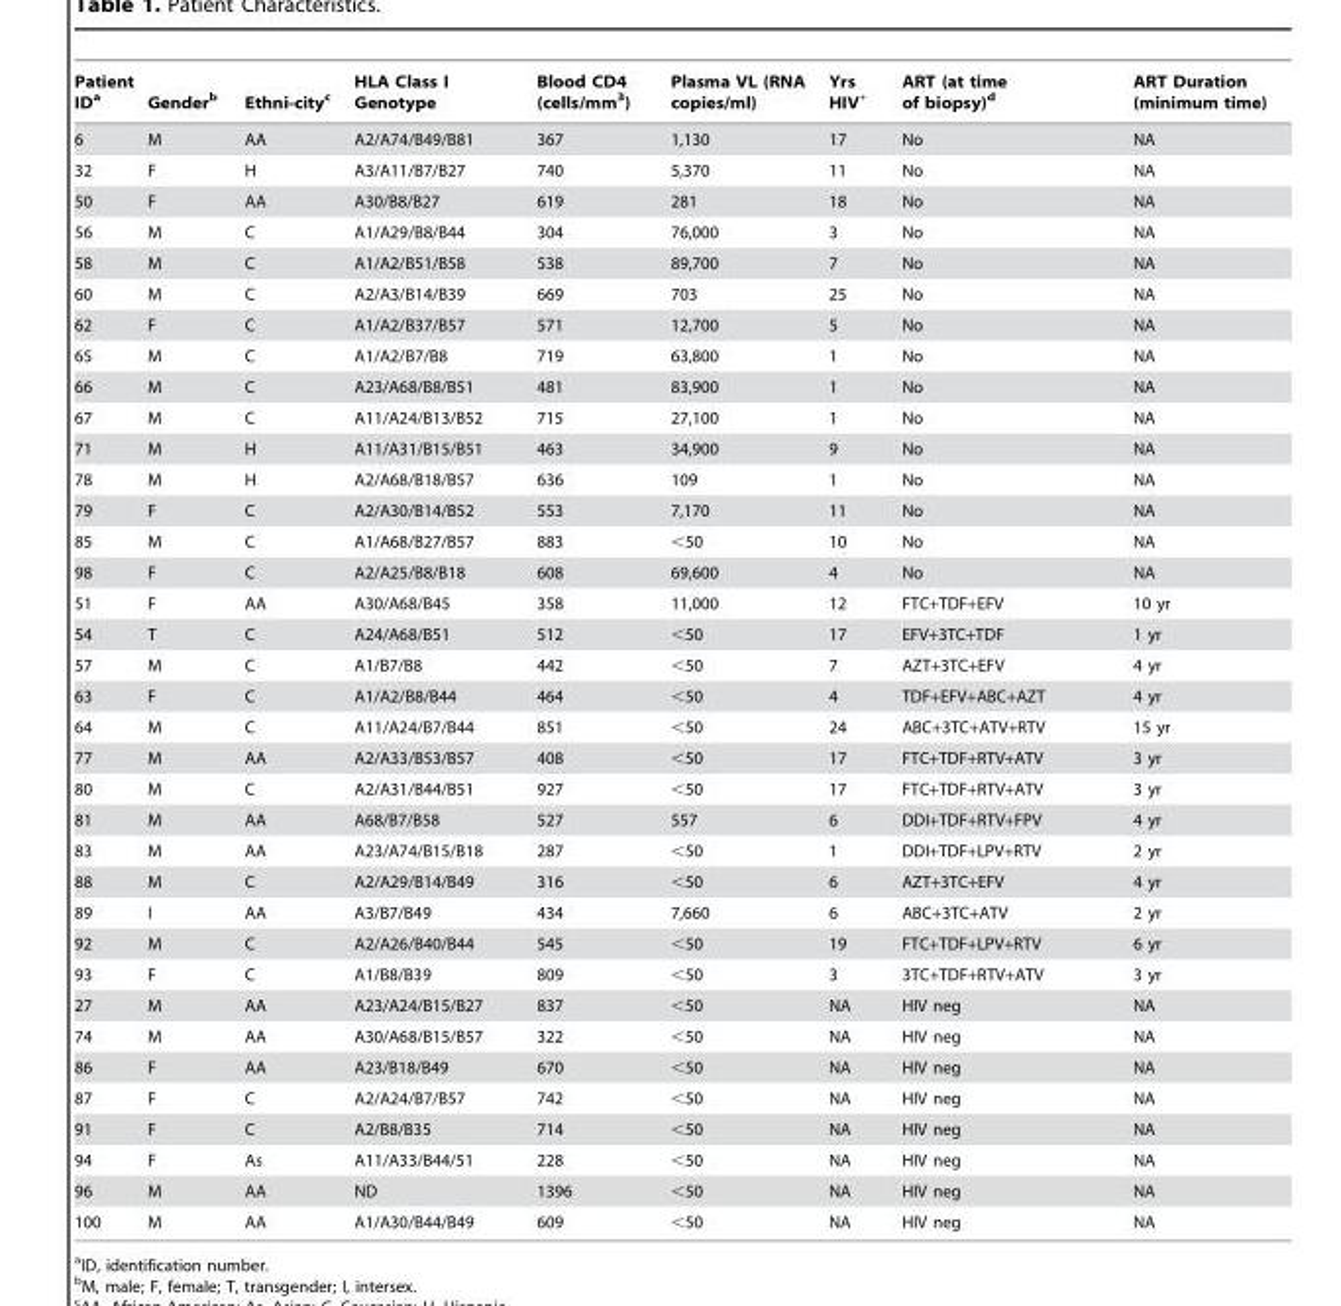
<table><thead><tr><td>Patient ID<sup>a</sup></td><td>Gender<sup>b</sup></td><td>Ethni-city<sup>c</sup></td><td>HLA Class I Genotype</td><td>Blood CD4 (cells/mm<sup>3</sup>)</td><td>Plasma VL (RNA copies/ml)</td><td>Yrs HIV<sup>+</sup></td><td>ART (at time of biopsy)<sup>d</sup></td><td>ART Duration (minimum time)</td></tr></thead><tbody><tr><td>6</td><td>M</td><td>AA</td><td>A2/A74/B49/B81</td><td>367</td><td>1,130</td><td>17</td><td>No</td><td>NA</td></tr><tr><td>32</td><td>F</td><td>H</td><td>A3/A11/B7/B27</td><td>740</td><td>5,370</td><td>11</td><td>No</td><td>NA</td></tr><tr><td>50</td><td>F</td><td>AA</td><td>A30/B8/B27</td><td>619</td><td>281</td><td>18</td><td>No</td><td>NA</td></tr><tr><td>56</td><td>M</td><td>C</td><td>A1/A29/B8/B44</td><td>304</td><td>76,000</td><td>3</td><td>No</td><td>NA</td></tr><tr><td>58</td><td>M</td><td>C</td><td>A1/A2/B51/B58</td><td>538</td><td>89,700</td><td>7</td><td>No</td><td>NA</td></tr><tr><td>60</td><td>M</td><td>C</td><td>A2/A3/B14/B39</td><td>669</td><td>703</td><td>25</td><td>No</td><td>NA</td></tr><tr><td>62</td><td>F</td><td>C</td><td>A1/A2/B37/B57</td><td>571</td><td>12,700</td><td>5</td><td>No</td><td>NA</td></tr><tr><td>65</td><td>M</td><td>C</td><td>A1/A2/B7/B8</td><td>719</td><td>63,800</td><td>1</td><td>No</td><td>NA</td></tr><tr><td>66</td><td>M</td><td>C</td><td>A23/A68/B8/B51</td><td>481</td><td>83,900</td><td>1</td><td>No</td><td>NA</td></tr><tr><td>67</td><td>M</td><td>C</td><td>A11/A24/B13/B52</td><td>715</td><td>27,100</td><td>1</td><td>No</td><td>NA</td></tr><tr><td>71</td><td>M</td><td>H</td><td>A11/A31/B15/B51</td><td>463</td><td>34,900</td><td>9</td><td>No</td><td>NA</td></tr><tr><td>78</td><td>M</td><td>H</td><td>A2/A68/B18/B57</td><td>636</td><td>109</td><td>1</td><td>No</td><td>NA</td></tr><tr><td>79</td><td>F</td><td>C</td><td>A2/A30/B14/B52</td><td>553</td><td>7,170</td><td>11</td><td>No</td><td>NA</td></tr><tr><td>85</td><td>M</td><td>C</td><td>A1/A68/B27/B57</td><td>883</td><td>&lt;50</td><td>10</td><td>No</td><td>NA</td></tr><tr><td>98</td><td>F</td><td>C</td><td>A2/A25/B8/B18</td><td>608</td><td>69,600</td><td>4</td><td>No</td><td>NA</td></tr><tr><td>51</td><td>F</td><td>AA</td><td>A30/A68/B45</td><td>358</td><td>11,000</td><td>12</td><td>FTC+TDF+EFV</td><td>10 yr</td></tr><tr><td>54</td><td>T</td><td>C</td><td>A24/A68/B51</td><td>512</td><td>&lt;50</td><td>17</td><td>EFV+3TC+TDF</td><td>1 yr</td></tr><tr><td>57</td><td>M</td><td>C</td><td>A1/B7/B8</td><td>442</td><td>&lt;50</td><td>7</td><td>AZT+3TC+EFV</td><td>4 yr</td></tr><tr><td>63</td><td>F</td><td>C</td><td>A1/A2/B8/B44</td><td>464</td><td>&lt;50</td><td>4</td><td>TDF+EFV+ABC+AZT</td><td>4 yr</td></tr><tr><td>64</td><td>M</td><td>C</td><td>A11/A24/B7/B44</td><td>851</td><td>&lt;50</td><td>24</td><td>ABC+3TC+ATV+RTV</td><td>15 yr</td></tr><tr><td>77</td><td>M</td><td>AA</td><td>A2/A33/B53/B57</td><td>408</td><td>&lt;50</td><td>17</td><td>FTC+TDF+RTV+ATV</td><td>3 yr</td></tr><tr><td>80</td><td>M</td><td>C</td><td>A2/A31/B44/B51</td><td>927</td><td>&lt;50</td><td>17</td><td>FTC+TDF+RTV+ATV</td><td>3 yr</td></tr><tr><td>81</td><td>M</td><td>AA</td><td>A68/B7/B58</td><td>527</td><td>557</td><td>6</td><td>DDI+TDF+RTV+FPV</td><td>4 yr</td></tr><tr><td>83</td><td>M</td><td>AA</td><td>A23/A74/B15/B18</td><td>287</td><td>&lt;50</td><td>1</td><td>DDI+TDF+LPV+RTV</td><td>2 yr</td></tr><tr><td>88</td><td>M</td><td>C</td><td>A2/A29/B14/B49</td><td>316</td><td>&lt;50</td><td>6</td><td>AZT+3TC+EFV</td><td>4 yr</td></tr><tr><td>89</td><td>I</td><td>AA</td><td>A3/B7/B49</td><td>434</td><td>7,660</td><td>6</td><td>ABC+3TC+ATV</td><td>2 yr</td></tr><tr><td>92</td><td>M</td><td>C</td><td>A2/A26/B40/B44</td><td>545</td><td>&lt;50</td><td>19</td><td>FTC+TDF+LPV+RTV</td><td>6 yr</td></tr><tr><td>93</td><td>F</td><td>C</td><td>A1/B8/B39</td><td>809</td><td>&lt;50</td><td>3</td><td>3TC+TDF+RTV+ATV</td><td>3 yr</td></tr><tr><td>27</td><td>M</td><td>AA</td><td>A23/A24/B15/B27</td><td>837</td><td>&lt;50</td><td>NA</td><td>HIV neg</td><td>NA</td></tr><tr><td>74</td><td>M</td><td>AA</td><td>A30/A68/B15/B57</td><td>322</td><td>&lt;50</td><td>NA</td><td>HIV neg</td><td>NA</td></tr><tr><td>86</td><td>F</td><td>AA</td><td>A23/B18/B49</td><td>670</td><td>&lt;50</td><td>NA</td><td>HIV neg</td><td>NA</td></tr><tr><td>87</td><td>F</td><td>C</td><td>A2/A24/B7/B57</td><td>742</td><td>&lt;50</td><td>NA</td><td>HIV neg</td><td>NA</td></tr><tr><td>91</td><td>F</td><td>C</td><td>A2/B8/B35</td><td>714</td><td>&lt;50</td><td>NA</td><td>HIV neg</td><td>NA</td></tr><tr><td>94</td><td>F</td><td>As</td><td>A11/A33/B44/51</td><td>228</td><td>&lt;50</td><td>NA</td><td>HIV neg</td><td>NA</td></tr><tr><td>96</td><td>M</td><td>AA</td><td>ND</td><td>1396</td><td>&lt;50</td><td>NA</td><td>HIV neg</td><td>NA</td></tr><tr><td>100</td><td>M</td><td>AA</td><td>A1/A30/B44/B49</td><td>609</td><td>&lt;50</td><td>NA</td><td>HIV neg</td><td>NA</td></tr></tbody></table>